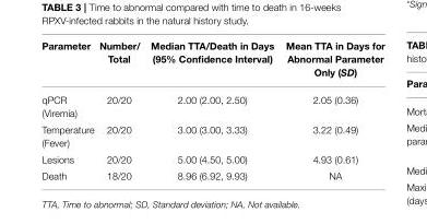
<table><thead><tr><td>Parameter</td><td>Number/ Total</td><td>Median TTA/Death in Days (95% Confidence Interval)</td><td>Mean TTA in Days for Abnormal Parameter Only (SD)</td></tr></thead><tbody><tr><td>qPCR (Viremia)</td><td>20/20</td><td>2.00 (2.00, 2.50)</td><td>2.05 (0.36)</td></tr><tr><td>Temperature (Fever)</td><td>20/20</td><td>3.00 (3.00, 3.33)</td><td>3.22 (0.49)</td></tr><tr><td>Lesions</td><td>20/20</td><td>5.00 (4.50, 5.00)</td><td>4.93 (0.61)</td></tr><tr><td>Death</td><td>18/20</td><td>8.96 (6.92, 9.93)</td><td>NA</td></tr></tbody></table>